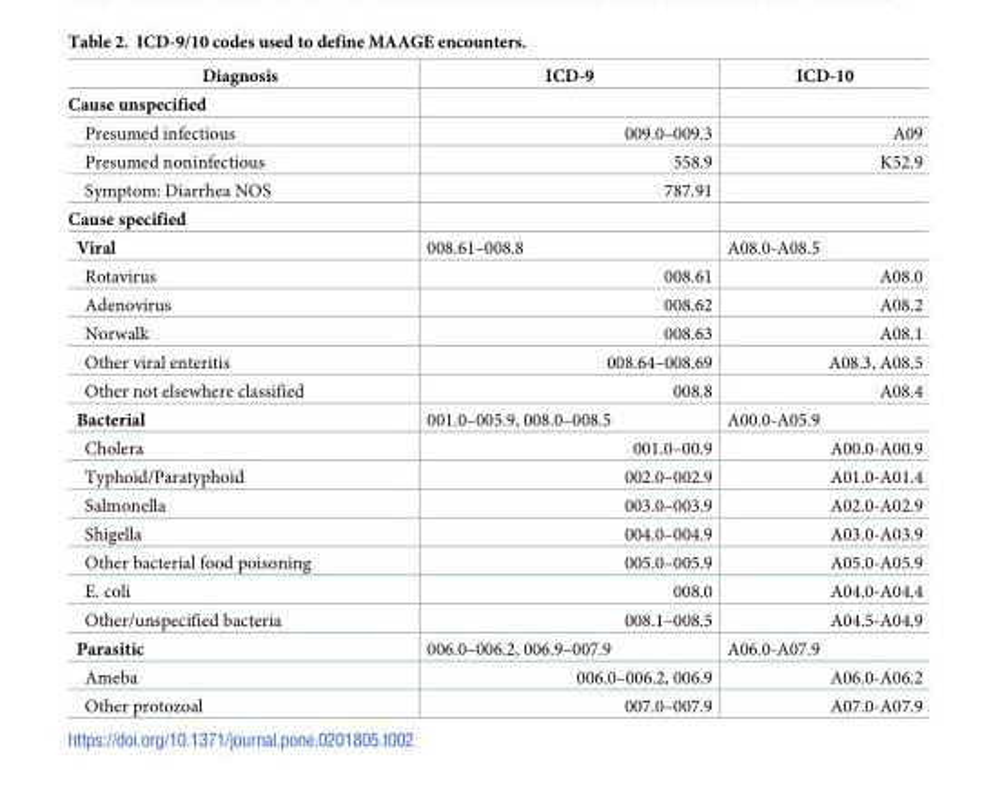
<table><thead><tr><td>Diagnosis</td><td>ICD-9</td><td>ICD-10</td></tr></thead><tbody><tr><td colspan="3">Cause unspecified</td></tr><tr><td>Presumed infectious</td><td>009.0–009.3</td><td>A09</td></tr><tr><td>Presumed noninfectious</td><td>558.9</td><td>K52.9</td></tr><tr><td>Symptom: Diarrhea NOS</td><td>787.91</td><td></td></tr><tr><td colspan="3">Cause specified</td></tr><tr><td>Viral</td><td>008.61–008.8</td><td>A08.0-A08.5</td></tr><tr><td>Rotavirus</td><td>008.61</td><td>A08.0</td></tr><tr><td>Adenovirus</td><td>008.62</td><td>A08.2</td></tr><tr><td>Norwalk</td><td>008.63</td><td>A08.1</td></tr><tr><td>Other viral enteritis</td><td>008.64–008.69</td><td>A08.3, A08.5</td></tr><tr><td>Other not elsewhere classified</td><td>008.8</td><td>A08.4</td></tr><tr><td>Bacterial</td><td>001.0–005.9, 008.0–008.5</td><td>A00.0-A05.9</td></tr><tr><td>Cholera</td><td>001.0–00.9</td><td>A00.0-A00.9</td></tr><tr><td>Typhoid/Paratyphoid</td><td>002.0–002.9</td><td>A01.0-A01.4</td></tr><tr><td>Salmonella</td><td>003.0–003.9</td><td>A02.0-A02.9</td></tr><tr><td>Shigella</td><td>004.0–004.9</td><td>A03.0-A03.9</td></tr><tr><td>Other bacterial food poisoning</td><td>005.0–005.9</td><td>A05.0-A05.9</td></tr><tr><td>E. coli</td><td>008.0</td><td>A04.0-A04.4</td></tr><tr><td>Other/unspecified bacteria</td><td>008.1–008.5</td><td>A04.5-A04.9</td></tr><tr><td>Parasitic</td><td>006.0–006.2, 006.9–007.9</td><td>A06.0-A07.9</td></tr><tr><td>Ameba</td><td>006.0–006.2, 006.9</td><td>A06.0-A06.2</td></tr><tr><td>Other protozoal</td><td>007.0–007.9</td><td>A07.0-A07.9</td></tr></tbody></table>